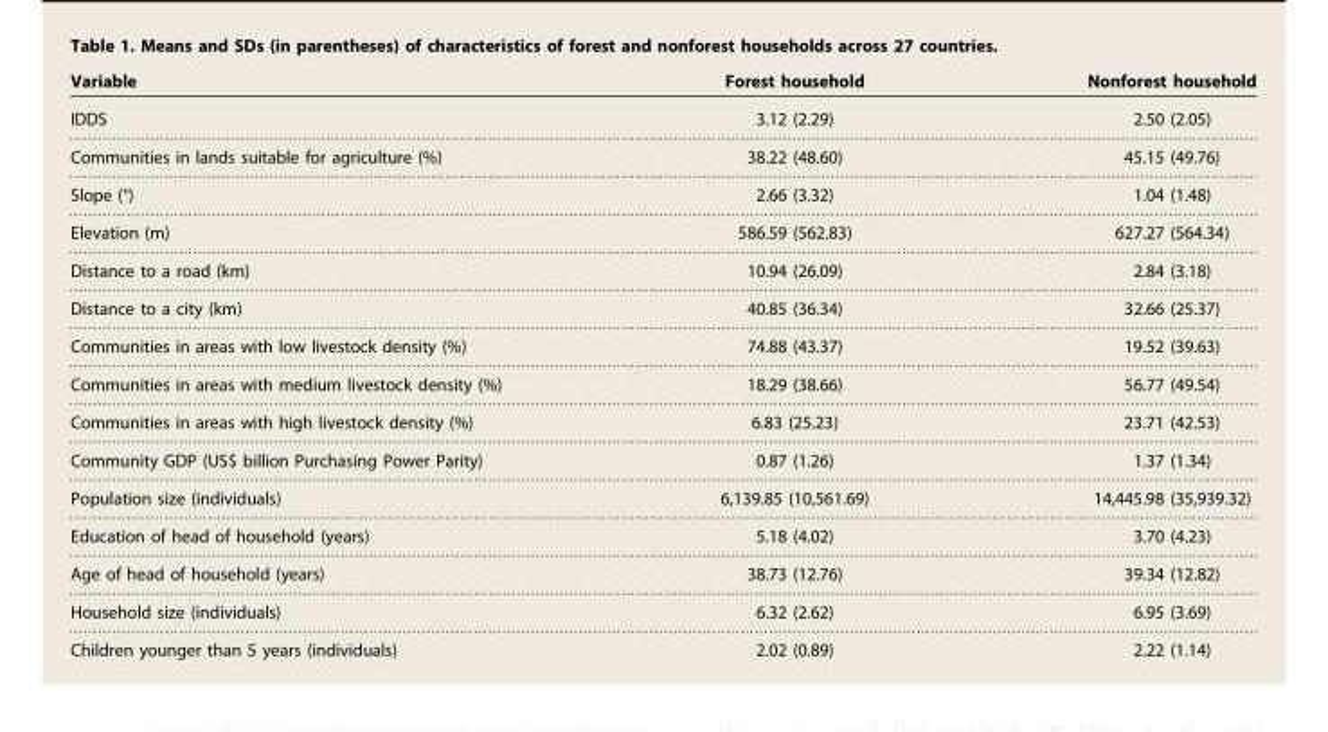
<table><thead><tr><td>Variable</td><td>Forest household</td><td>Nonforest household</td></tr></thead><tbody><tr><td>IDDS</td><td>3.12 (2.29)</td><td>2.50 (2.05)</td></tr><tr><td>Communities in lands suitable for agriculture (%)</td><td>38.22 (48.60)</td><td>45.15 (49.76)</td></tr><tr><td>Slope (°)</td><td>2.66 (3.32)</td><td>1.04 (1.48)</td></tr><tr><td>Elevation (m)</td><td>586.59 (562.83)</td><td>627.27 (564.34)</td></tr><tr><td>Distance to a road (km)</td><td>10.94 (26.09)</td><td>2.84 (3.18)</td></tr><tr><td>Distance to a city (km)</td><td>40.85 (36.34)</td><td>32.66 (25.37)</td></tr><tr><td>Communities in areas with low livestock density (%)</td><td>74.88 (43.37)</td><td>19.52 (39.63)</td></tr><tr><td>Communities in areas with medium livestock density (%)</td><td>18.29 (38.66)</td><td>56.77 (49.54)</td></tr><tr><td>Communities in areas with high livestock density (%)</td><td>6.83 (25.23)</td><td>23.71 (42.53)</td></tr><tr><td>Community GDP (US$ billion Purchasing Power Parity)</td><td>0.87 (1.26)</td><td>1.37 (1.34)</td></tr><tr><td>Population size (individuals)</td><td>6,139.85 (10,561.69)</td><td>14,445.98 (35,939.32)</td></tr><tr><td>Education of head of household (years)</td><td>5.18 (4.02)</td><td>3.70 (4.23)</td></tr><tr><td>Age of head of household (years)</td><td>38.73 (12.76)</td><td>39.34 (12.82)</td></tr><tr><td>Household size (individuals)</td><td>6.32 (2.62)</td><td>6.95 (3.69)</td></tr><tr><td>Children younger than 5 years (individuals)</td><td>2.02 (0.89)</td><td>2.22 (1.14)</td></tr></tbody></table>